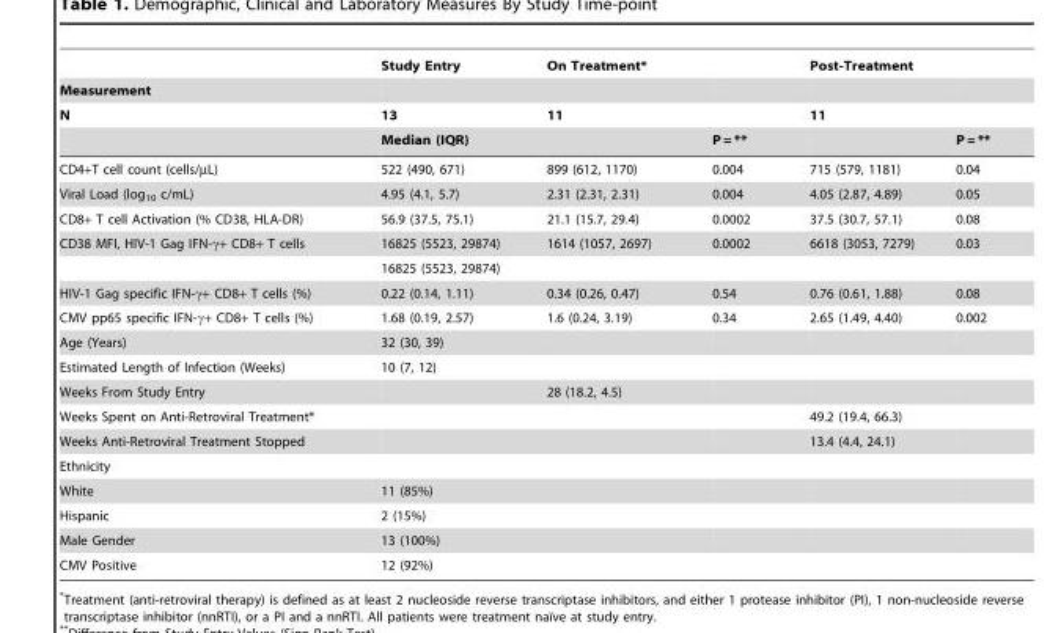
<table><thead><tr><td rowspan="4">Measurement N</td><td rowspan="4">Study Entry 13 Median (IQR)</td><td rowspan="4">On Treatment* 11</td><td rowspan="4">P = **</td><td rowspan="4">Post-Treatment 11</td><td rowspan="4">P = **</td></tr><tr></tr><tr></tr><tr></tr></thead><tbody><tr><td>CD4+T cell count (cells/µL)</td><td>522 (490, 671)</td><td>899 (612, 1170)</td><td>0.004</td><td>715 (579, 1181)</td><td>0.04</td></tr><tr><td>Viral Load (log<sub>10</sub> c/mL)</td><td>4.95 (4.1, 5.7)</td><td>2.31 (2.31, 2.31)</td><td>0.004</td><td>4.05 (2.87, 4.89)</td><td>0.05</td></tr><tr><td>CD8+ T cell Activation (% CD38, HLA-DR)</td><td>56.9 (37.5, 75.1)</td><td>21.1 (15.7, 29.4)</td><td>0.0002</td><td>37.5 (30.7, 57.1)</td><td>0.08</td></tr><tr><td rowspan="2">CD38 MFI, HIV-1 Gag IFN-γ+ CD8+ T cells</td><td>16825 (5523, 29874)</td><td>1614 (1057, 2697)</td><td>0.0002</td><td>6618 (3053, 7279)</td><td>0.03</td></tr><tr><td>16825 (5523, 29874)</td><td></td><td></td><td></td><td></td></tr><tr><td>HIV-1 Gag specific IFN-γ+ CD8+ T cells (%)</td><td>0.22 (0.14, 1.11)</td><td>0.34 (0.26, 0.47)</td><td>0.54</td><td>0.76 (0.61, 1.88)</td><td>0.08</td></tr><tr><td>CMV pp65 specific IFN-γ+ CD8+ T cells (%)</td><td>1.68 (0.19, 2.57)</td><td>1.6 (0.24, 3.19)</td><td>0.34</td><td>2.65 (1.49, 4.40)</td><td>0.002</td></tr><tr><td>Age (Years)</td><td>32 (30, 39)</td><td></td><td></td><td></td><td></td></tr><tr><td>Estimated Length of Infection (Weeks)</td><td>10 (7, 12)</td><td></td><td></td><td></td><td></td></tr><tr><td>Weeks From Study Entry</td><td></td><td>28 (18.2, 4.5)</td><td></td><td></td><td></td></tr><tr><td>Weeks Spent on Anti-Retroviral Treatment*</td><td></td><td></td><td></td><td>49.2 (19.4, 66.3)</td><td></td></tr><tr><td>Weeks Anti-Retroviral Treatment Stopped</td><td></td><td></td><td></td><td>13.4 (4.4, 24.1)</td><td></td></tr><tr><td colspan="6">Ethnicity</td></tr><tr><td>White</td><td>11 (85%)</td><td></td><td></td><td></td><td></td></tr><tr><td>Hispanic</td><td>2 (15%)</td><td></td><td></td><td></td><td></td></tr><tr><td>Male Gender</td><td>13 (100%)</td><td></td><td></td><td></td><td></td></tr><tr><td>CMV Positive</td><td>12 (92%)</td><td></td><td></td><td></td><td></td></tr></tbody></table>